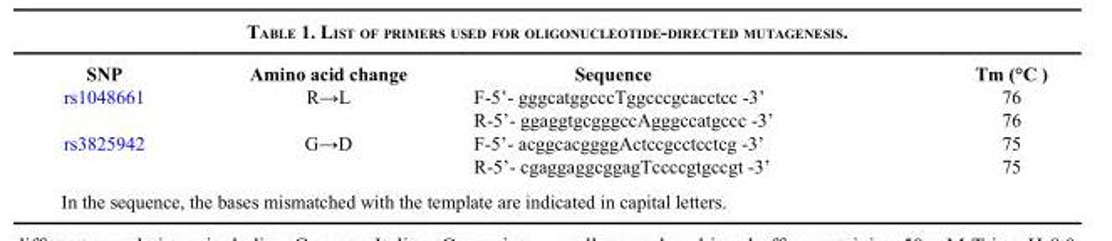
<table><thead><tr><td>SNP</td><td>Amino acid change</td><td>Sequence</td><td>Tm (°C )</td></tr></thead><tbody><tr><td rowspan="2">rs1048661</td><td>R→L</td><td>F-5’- gggcatggcccTggcccgcacctcc -3’</td><td>76</td></tr><tr><td></td><td>R-5’- ggaggtgcgggccAgggccatgccc -3’</td><td>76</td></tr><tr><td rowspan="2">rs3825942</td><td>G→D</td><td>F-5’- acggcacggggActccgcctcctcg -3’</td><td>75</td></tr><tr><td></td><td>R-5’- cgaggaggcggagTccccgtgccgt -3’</td><td>75</td></tr></tbody></table>